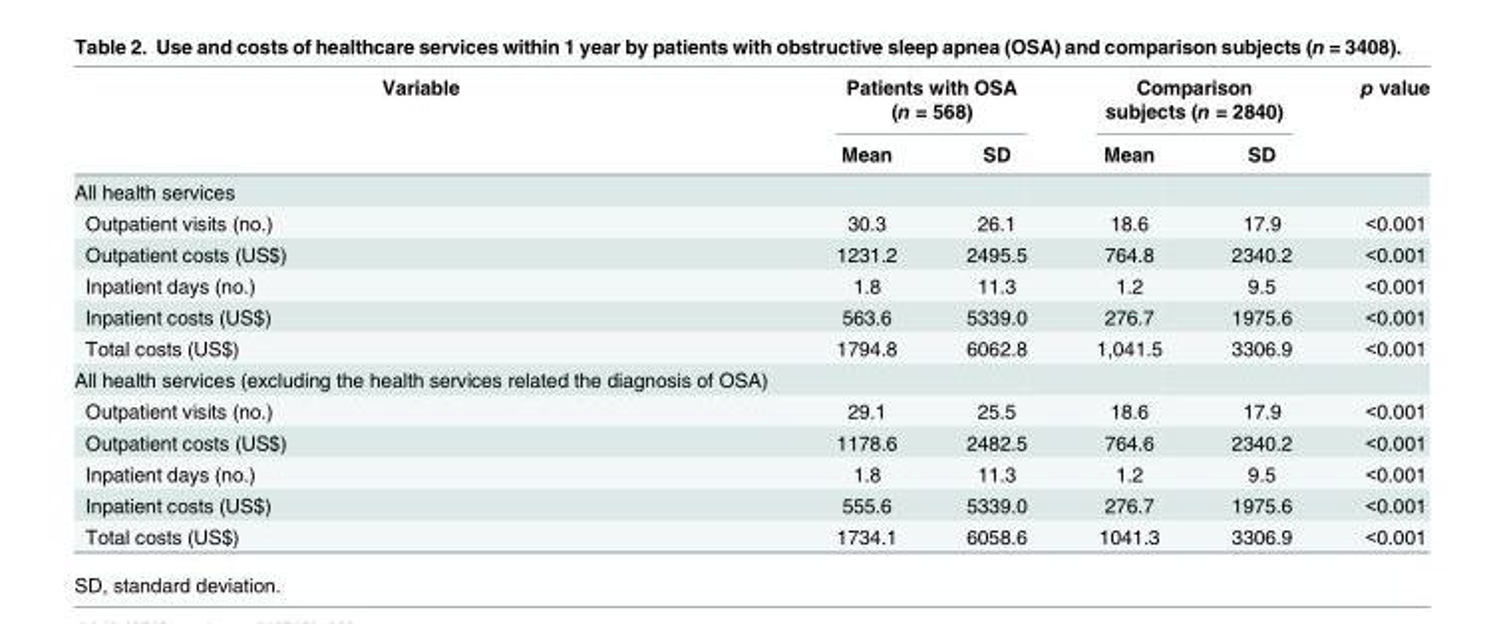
<table><thead><tr><td rowspan="2">Variable</td><td colspan="2">Patients with OSA (n = 568)</td><td colspan="2">Comparison subjects (n = 2840)</td><td rowspan="2">p value</td></tr><tr><td>Mean</td><td>SD</td><td>Mean</td><td>SD</td></tr></thead><tbody><tr><td colspan="6">All health services</td></tr><tr><td>Outpatient visits (no.)</td><td>30.3</td><td>26.1</td><td>18.6</td><td>17.9</td><td>&lt;0.001</td></tr><tr><td>Outpatient costs (US$)</td><td>1231.2</td><td>2495.5</td><td>764.8</td><td>2340.2</td><td>&lt;0.001</td></tr><tr><td>Inpatient days (no.)</td><td>1.8</td><td>11.3</td><td>1.2</td><td>9.5</td><td>&lt;0.001</td></tr><tr><td>Inpatient costs (US$)</td><td>563.6</td><td>5339.0</td><td>276.7</td><td>1975.6</td><td>&lt;0.001</td></tr><tr><td>Total costs (US$)</td><td>1794.8</td><td>6062.8</td><td>1,041.5</td><td>3306.9</td><td>&lt;0.001</td></tr><tr><td colspan="6">All health services (excluding the health services related the diagnosis of OSA)</td></tr><tr><td>Outpatient visits (no.)</td><td>29.1</td><td>25.5</td><td>18.6</td><td>17.9</td><td>&lt;0.001</td></tr><tr><td>Outpatient costs (US$)</td><td>1178.6</td><td>2482.5</td><td>764.6</td><td>2340.2</td><td>&lt;0.001</td></tr><tr><td>Inpatient days (no.)</td><td>1.8</td><td>11.3</td><td>1.2</td><td>9.5</td><td>&lt;0.001</td></tr><tr><td>Inpatient costs (US$)</td><td>555.6</td><td>5339.0</td><td>276.7</td><td>1975.6</td><td>&lt;0.001</td></tr><tr><td>Total costs (US$)</td><td>1734.1</td><td>6058.6</td><td>1041.3</td><td>3306.9</td><td>&lt;0.001</td></tr></tbody></table>